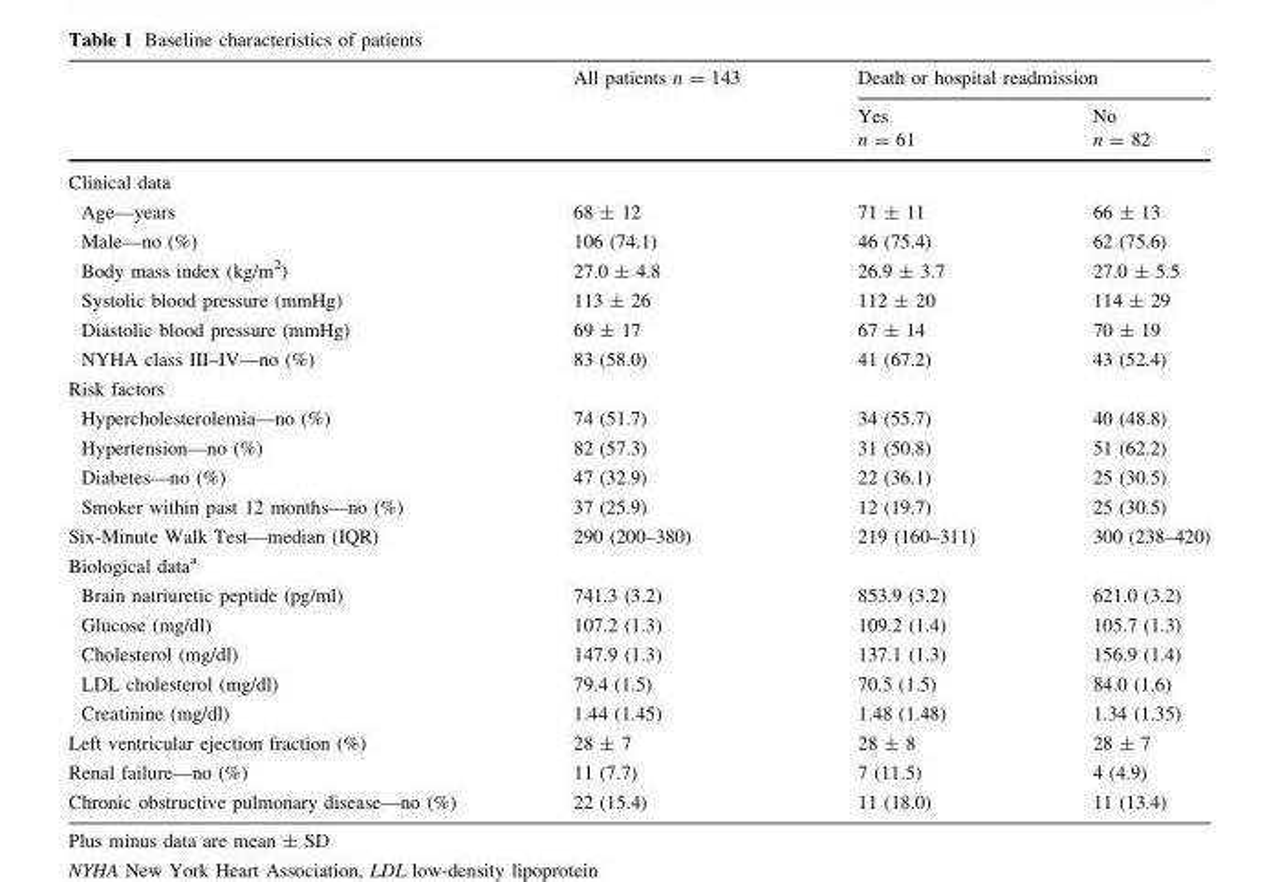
<table><thead><tr><td rowspan="2"></td><td rowspan="2">All patients n = 143</td><td colspan="2">Death or hospital readmission</td></tr><tr><td>Yes n = 61</td><td>No n = 82</td></tr></thead><tbody><tr><td colspan="4">Clinical data</td></tr><tr><td>Age—years</td><td>68 ± 12</td><td>71 ± 11</td><td>66 ± 13</td></tr><tr><td>Male—no (%)</td><td>106 (74.1)</td><td>46 (75.4)</td><td>62 (75.6)</td></tr><tr><td>Body mass index (kg/m<sup>2</sup>)</td><td>27.0 ± 4.8</td><td>26.9 ± 3.7</td><td>27.0 ± 5.5</td></tr><tr><td>Systolic blood pressure (mmHg)</td><td>113 ± 26</td><td>112 ± 20</td><td>114 ± 29</td></tr><tr><td>Diastolic blood pressure (mmHg)</td><td>69 ± 17</td><td>67 ± 14</td><td>70 ± 19</td></tr><tr><td>NYHA class III–IV—no (%)</td><td>83 (58.0)</td><td>41 (67.2)</td><td>43 (52.4)</td></tr><tr><td colspan="4">Risk factors</td></tr><tr><td>Hypercholesterolemia—no (%)</td><td>74 (51.7)</td><td>34 (55.7)</td><td>40 (48.8)</td></tr><tr><td>Hypertension—no (%)</td><td>82 (57.3)</td><td>31 (50.8)</td><td>51 (62.2)</td></tr><tr><td>Diabetes—no (%)</td><td>47 (32.9)</td><td>22 (36.1)</td><td>25 (30.5)</td></tr><tr><td>Smoker within past 12 months—no (%)</td><td>37 (25.9)</td><td>12 (19.7)</td><td>25 (30.5)</td></tr><tr><td>Six-Minute Walk Test—median (IQR)</td><td>290 (200–380)</td><td>219 (160–311)</td><td>300 (238–420)</td></tr><tr><td colspan="4">Biological data<sup>a</sup></td></tr><tr><td>Brain natriuretic peptide (pg/ml)</td><td>741.3 (3.2)</td><td>853.9 (3.2)</td><td>621.0 (3.2)</td></tr><tr><td>Glucose (mg/dl)</td><td>107.2 (1.3)</td><td>109.2 (1.4)</td><td>105.7 (1.3)</td></tr><tr><td>Cholesterol (mg/dl)</td><td>147.9 (1.3)</td><td>137.1 (1.3)</td><td>156.9 (1.4)</td></tr><tr><td>LDL cholesterol (mg/dl)</td><td>79.4 (1.5)</td><td>70.5 (1.5)</td><td>84.0 (1.6)</td></tr><tr><td>Creatinine (mg/dl)</td><td>1.44 (1.45)</td><td>1.48 (1.48)</td><td>1.34 (1.35)</td></tr><tr><td>Left ventricular ejection fraction (%)</td><td>28 ± 7</td><td>28 ± 8</td><td>28 ± 7</td></tr><tr><td>Renal failure—no (%)</td><td>11 (7.7)</td><td>7 (11.5)</td><td>4 (4.9)</td></tr><tr><td>Chronic obstructive pulmonary disease—no (%)</td><td>22 (15.4)</td><td>11 (18.0)</td><td>11 (13.4)</td></tr></tbody></table>